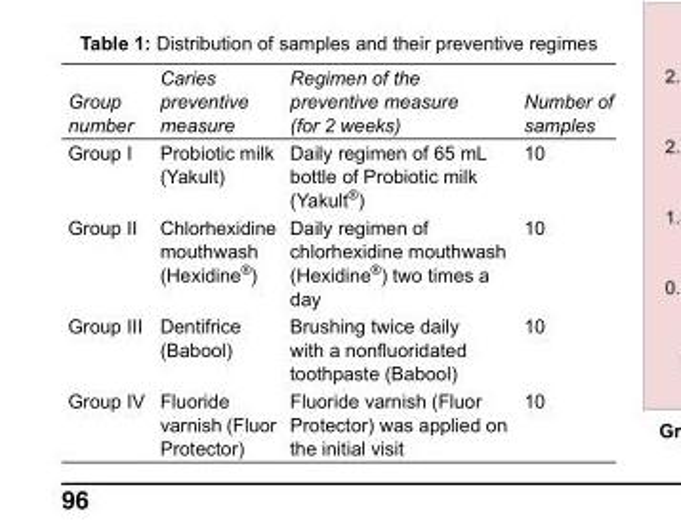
<table><tbody><tr><td>Group number</td><td>Caries preventive measure</td><td>Regimen of the preventive measure (for 2 weeks)</td><td>Number of samples</td></tr><tr><td>Group I</td><td>Probiotic milk (Yakult)</td><td>Daily regimen of 65 mL bottle of Probiotic milk (Yakult®)</td><td>10</td></tr><tr><td>Group II</td><td>Chlorhexidine mouthwash (Hexidine®)</td><td>Daily regimen of chlorhexidine mouthwash (Hexidine®) two times a day</td><td>10</td></tr><tr><td>Group III</td><td>Dentifrice (Babool)</td><td>Brushing twice daily with a nonfluoridated toothpaste (Babool)</td><td>10</td></tr><tr><td>Group IV</td><td>Fluoride varnish (Fluor Protector)</td><td>Fluoride varnish (Fluor Protector) was applied on the initial visit</td><td>10</td></tr></tbody></table>